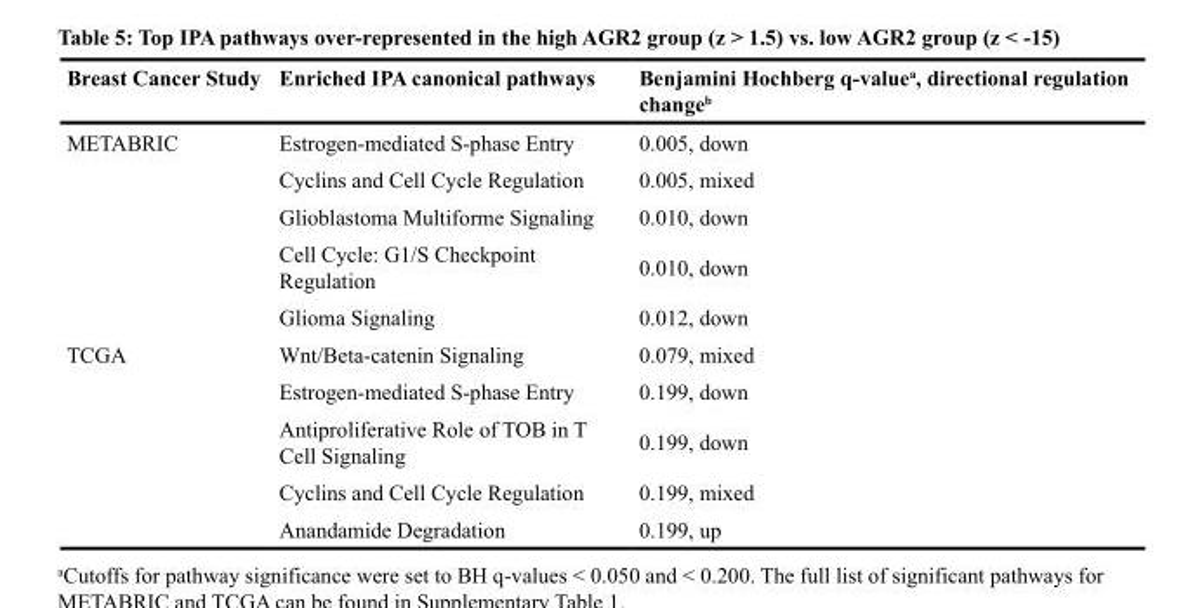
<table><thead><tr><td>Breast Cancer Study</td><td>Enriched IPA canonical pathways</td><td>Benjamini Hochberg q-value<sup>a</sup>, directional regulation change<sup>b</sup></td></tr></thead><tbody><tr><td rowspan="5">METABRIC</td><td>Estrogen-mediated S-phase Entry</td><td>0.005, down</td></tr><tr><td>Cyclins and Cell Cycle Regulation</td><td>0.005, mixed</td></tr><tr><td>Glioblastoma Multiforme Signaling</td><td>0.010, down</td></tr><tr><td>Cell Cycle: G1/S Checkpoint Regulation</td><td>0.010, down</td></tr><tr><td>Glioma Signaling</td><td>0.012, down</td></tr><tr><td rowspan="5">TCGA</td><td>Wnt/Beta-catenin Signaling</td><td>0.079, mixed</td></tr><tr><td>Estrogen-mediated S-phase Entry</td><td>0.199, down</td></tr><tr><td>Antiproliferative Role of TOB in T Cell Signaling</td><td>0.199, down</td></tr><tr><td>Cyclins and Cell Cycle Regulation</td><td>0.199, mixed</td></tr><tr><td>Anandamide Degradation</td><td>0.199, up</td></tr></tbody></table>